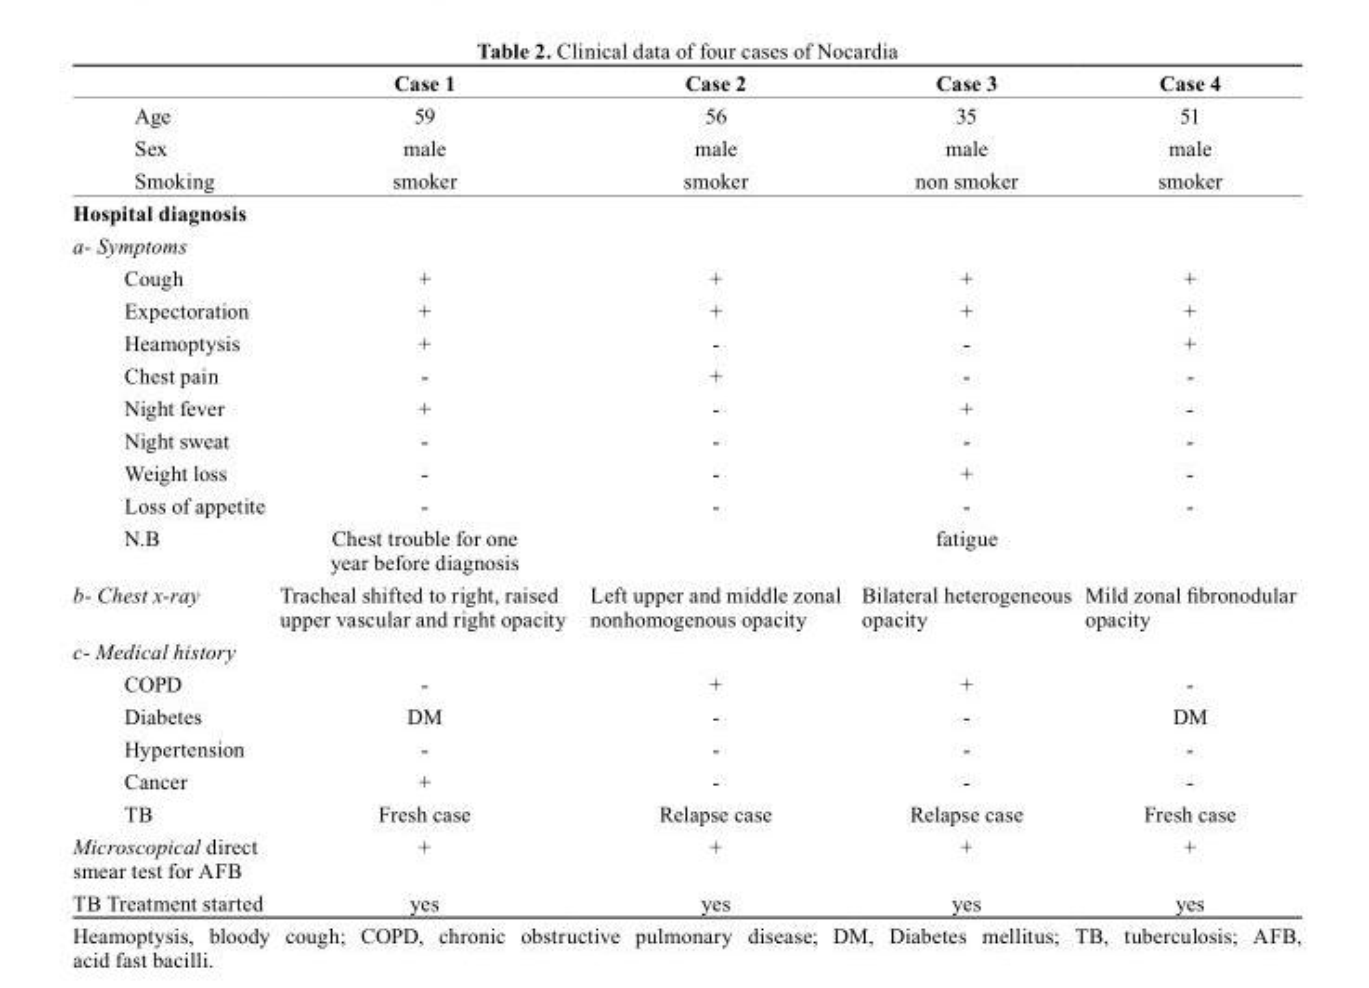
<table><thead><tr><td></td><td>case 1</td><td>case 2</td><td>case 3</td><td>case 4</td></tr></thead><tbody><tr><td>Age</td><td>59</td><td>56</td><td>35</td><td>51</td></tr><tr><td>Sex</td><td>male</td><td>male</td><td>male</td><td>male</td></tr><tr><td>Smoking</td><td>smoker</td><td>smoker</td><td>non smoker</td><td>smoker</td></tr><tr><td colspan="5">Hospital diagnosis</td></tr><tr><td colspan="5">a- Symptoms</td></tr><tr><td>Cough</td><td>+</td><td>+</td><td>+</td><td>+</td></tr><tr><td>Expectoration</td><td>+</td><td>+</td><td>+</td><td>+</td></tr><tr><td>Heamoptysis</td><td>+</td><td>-</td><td>-</td><td>+</td></tr><tr><td>Chest pain</td><td>-</td><td>+</td><td>-</td><td>-</td></tr><tr><td>Night fever</td><td>+</td><td>-</td><td>+</td><td>-</td></tr><tr><td>Night sweat</td><td>-</td><td>-</td><td>-</td><td>-</td></tr><tr><td>Weight loss</td><td>-</td><td>-</td><td>+</td><td>-</td></tr><tr><td>Loss of appetite</td><td>-</td><td>-</td><td>-</td><td>-</td></tr><tr><td>N.B</td><td>Chest trouble for one year before diagnosis</td><td></td><td>fatigue</td><td></td></tr><tr><td>b- Chest x-ray</td><td>Tracheal shifted to right, raised upper vascular and right opacity</td><td>Left upper and middle zonal nonhomogenous opacity</td><td>Bilateral heterogeneous opacity</td><td>Mild zonal fibronodular opacity</td></tr><tr><td colspan="5">c- Medical history</td></tr><tr><td>COPD</td><td>-</td><td>+</td><td>+</td><td>-</td></tr><tr><td>Diabetes</td><td>DM</td><td>-</td><td>-</td><td>DM</td></tr><tr><td>Hypertension</td><td>-</td><td>-</td><td>-</td><td>-</td></tr><tr><td>Cancer</td><td>+</td><td>-</td><td>-</td><td>-</td></tr><tr><td>TB</td><td>Fresh case</td><td>Relapse case</td><td>Relapse case</td><td>Fresh case</td></tr><tr><td>Microscopical direct smear test for AFB</td><td>+</td><td>+</td><td>+</td><td>+</td></tr><tr><td>TB Treatment started</td><td>yes</td><td>yes</td><td>yes</td><td>yes</td></tr></tbody></table>